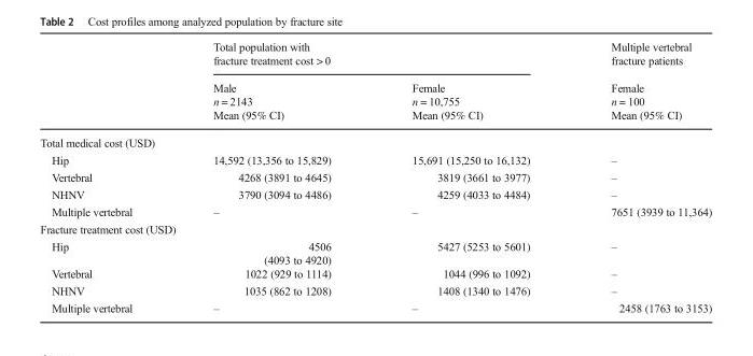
<table><thead><tr><td rowspan="3"></td><td colspan="2">Total population with fracture treatment cost &gt; 0</td><td rowspan="3">Multiple vertebral fracture patients Female n = 100 Mean (95% CI)</td></tr><tr><td rowspan="2">Male n = 2143 Mean (95% CI)</td><td rowspan="2">Female n = 10,755 Mean (95% CI)</td></tr><tr></tr></thead><tbody><tr><td colspan="4">Total medical cost (USD)</td></tr><tr><td>Hip</td><td>14,592 (13,356 to 15,829)</td><td>15,691 (15,250 to 16,132)</td><td>–</td></tr><tr><td>Vertebral</td><td>4268 (3891 to 4645)</td><td>3819 (3661 to 3977)</td><td>–</td></tr><tr><td>NHNV</td><td>3790 (3094 to 4486)</td><td>4259 (4033 to 4484)</td><td>–</td></tr><tr><td>Multiple vertebral</td><td>–</td><td>–</td><td>7651 (3939 to 11,364)</td></tr><tr><td colspan="4">Fracture treatment cost (USD)</td></tr><tr><td>Hip</td><td>4506 (4093 to 4920)</td><td>5427 (5253 to 5601)</td><td>–</td></tr><tr><td>Vertebral</td><td>1022 (929 to 1114)</td><td>1044 (996 to 1092)</td><td>–</td></tr><tr><td>NHNV</td><td>1035 (862 to 1208)</td><td>1408 (1340 to 1476)</td><td>–</td></tr><tr><td>Multiple vertebral</td><td>–</td><td>–</td><td>2458 (1763 to 3153)</td></tr></tbody></table>